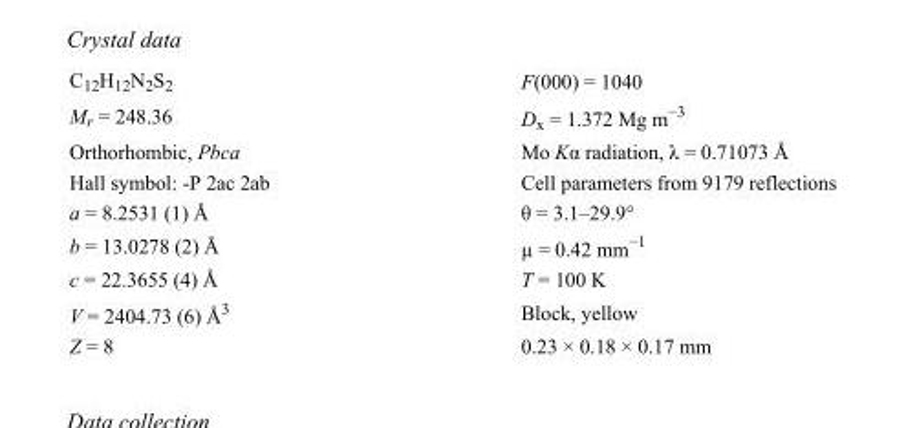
<table><tbody><tr><td>C<sub>12</sub>H<sub>12</sub>N<sub>2</sub>S<sub>2</sub></td><td>F(000) = 1040</td></tr><tr><td>M<sub>r</sub> = 248.36</td><td>D<sub>x</sub> = 1.372 Mg m<sup>−3</sup></td></tr><tr><td>Orthorhombic, Pbca</td><td>Mo Kα radiation, λ = 0.71073 Å</td></tr><tr><td>Hall symbol: -P 2ac 2ab</td><td>Cell parameters from 9179 reflections</td></tr><tr><td>a = 8.2531 (1) Å</td><td>θ = 3.1–29.9°</td></tr><tr><td>b = 13.0278 (2) Å</td><td>µ = 0.42 mm<sup>−1</sup></td></tr><tr><td>c = 22.3655 (4) Å</td><td>T = 100 K</td></tr><tr><td>V = 2404.73 (6) Å<sup>3</sup></td><td>Block, yellow</td></tr><tr><td>Z = 8</td><td>0.23 × 0.18 × 0.17 mm</td></tr></tbody></table>